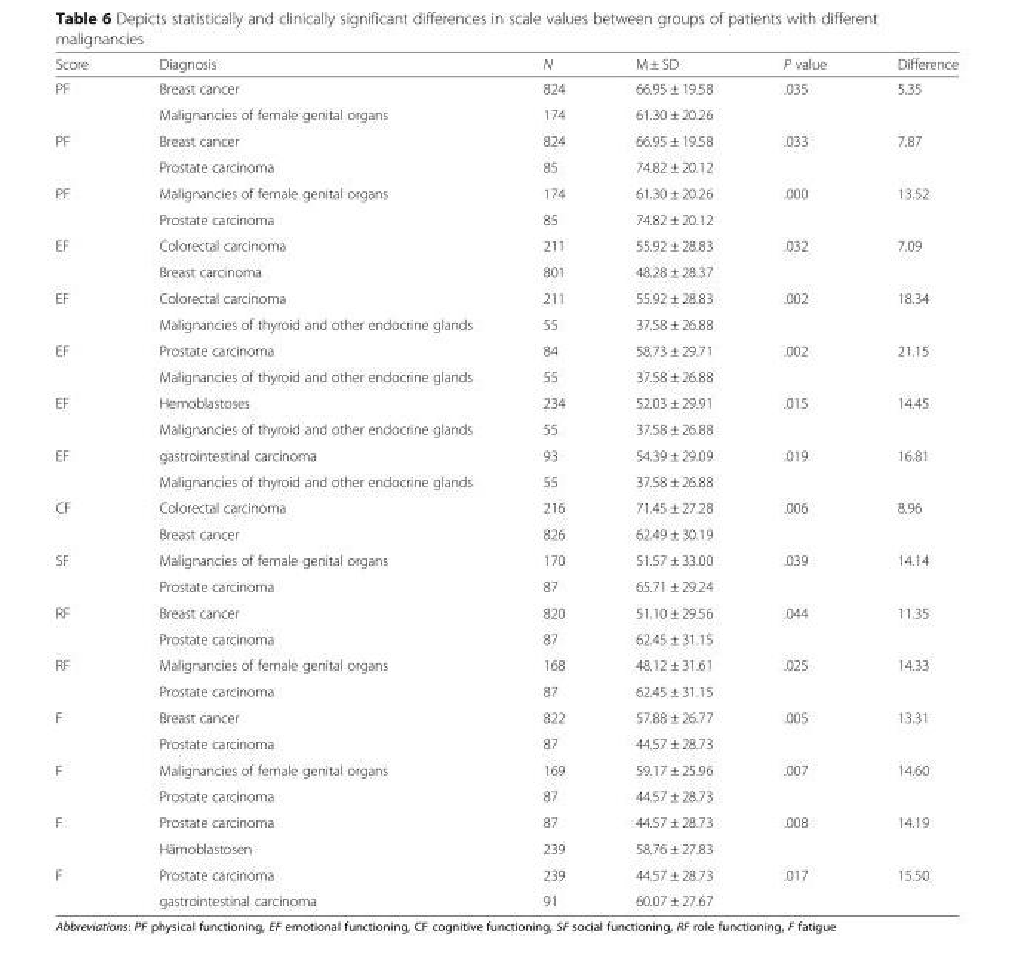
<table><thead><tr><td>Score</td><td>Diagnosis</td><td>N</td><td>M ± SD</td><td>P value</td><td>Difference</td></tr></thead><tbody><tr><td rowspan="2">PF</td><td>Breast cancer</td><td>824</td><td>66.95 ± 19.58</td><td rowspan="2">.035</td><td rowspan="2">5.35</td></tr><tr><td>Malignancies of female genital organs</td><td>174</td><td>61.30 ± 20.26</td></tr><tr><td rowspan="2">PF</td><td>Breast cancer</td><td>824</td><td>66.95 ± 19.58</td><td rowspan="2">.033</td><td rowspan="2">7.87</td></tr><tr><td>Prostate carcinoma</td><td>85</td><td>74.82 ± 20.12</td></tr><tr><td rowspan="2">PF</td><td>Malignancies of female genital organs</td><td>174</td><td>61.30 ± 20.26</td><td rowspan="2">.000</td><td rowspan="2">13.52</td></tr><tr><td>Prostate carcinoma</td><td>85</td><td>74.82 ± 20.12</td></tr><tr><td rowspan="2">EF</td><td>Colorectal carcinoma</td><td>211</td><td>55.92 ± 28.83</td><td rowspan="2">.032</td><td rowspan="2">7.09</td></tr><tr><td>Breast carcinoma</td><td>801</td><td>48.28 ± 28.37</td></tr><tr><td rowspan="2">EF</td><td>Colorectal carcinoma</td><td>211</td><td>55.92 ± 28.83</td><td rowspan="2">.002</td><td rowspan="2">18.34</td></tr><tr><td>Malignancies of thyroid and other endocrine glands</td><td>55</td><td>37.58 ± 26.88</td></tr><tr><td rowspan="2">EF</td><td>Prostate carcinoma</td><td>84</td><td>58.73 ± 29.71</td><td rowspan="2">.002</td><td rowspan="2">21.15</td></tr><tr><td>Malignancies of thyroid and other endocrine glands</td><td>55</td><td>37.58 ± 26.88</td></tr><tr><td rowspan="2">EF</td><td>Hemoblastoses</td><td>234</td><td>52.03 ± 29.91</td><td rowspan="2">.015</td><td rowspan="2">14.45</td></tr><tr><td>Malignancies of thyroid and other endocrine glands</td><td>55</td><td>37.58 ± 26.88</td></tr><tr><td rowspan="2">EF</td><td>gastrointestinal carcinoma</td><td>93</td><td>54.39 ± 29.09</td><td rowspan="2">.019</td><td rowspan="2">16.81</td></tr><tr><td>Malignancies of thyroid and other endocrine glands</td><td>55</td><td>37.58 ± 26.88</td></tr><tr><td rowspan="2">CF</td><td>Colorectal carcinoma</td><td>216</td><td>71.45 ± 27.28</td><td rowspan="2">.006</td><td rowspan="2">8.96</td></tr><tr><td>Breast cancer</td><td>826</td><td>62.49 ± 30.19</td></tr><tr><td rowspan="2">SF</td><td>Malignancies of female genital organs</td><td>170</td><td>51.57 ± 33.00</td><td rowspan="2">.039</td><td rowspan="2">14.14</td></tr><tr><td>Prostate carcinoma</td><td>87</td><td>65.71 ± 29.24</td></tr><tr><td rowspan="2">RF</td><td>Breast cancer</td><td>820</td><td>51.10 ± 29.56</td><td rowspan="2">.044</td><td rowspan="2">11.35</td></tr><tr><td>Prostate carcinoma</td><td>87</td><td>62.45 ± 31.15</td></tr><tr><td rowspan="2">RF</td><td>Malignancies of female genital organs</td><td>168</td><td>48.12 ± 31.61</td><td rowspan="2">.025</td><td rowspan="2">14.33</td></tr><tr><td>Prostate carcinoma</td><td>87</td><td>62.45 ± 31.15</td></tr><tr><td rowspan="2">F</td><td>Breast cancer</td><td>822</td><td>57.88 ± 26.77</td><td rowspan="2">.005</td><td rowspan="2">13.31</td></tr><tr><td>Prostate carcinoma</td><td>87</td><td>44.57 ± 28.73</td></tr><tr><td rowspan="2">F</td><td>Malignancies of female genital organs</td><td>169</td><td>59.17 ± 25.96</td><td rowspan="2">.007</td><td rowspan="2">14.60</td></tr><tr><td>Prostate carcinoma</td><td>87</td><td>44.57 ± 28.73</td></tr><tr><td rowspan="2">F</td><td>Prostate carcinoma</td><td>87</td><td>44.57 ± 28.73</td><td rowspan="2">.008</td><td rowspan="2">14.19</td></tr><tr><td>Hämoblastosen</td><td>239</td><td>58.76 ± 27.83</td></tr><tr><td rowspan="2">F</td><td>Prostate carcinoma</td><td>239</td><td>44.57 ± 28.73</td><td rowspan="2">.017</td><td rowspan="2">15.50</td></tr><tr><td>gastrointestinal carcinoma</td><td>91</td><td>60.07 ± 27.67</td></tr></tbody></table>